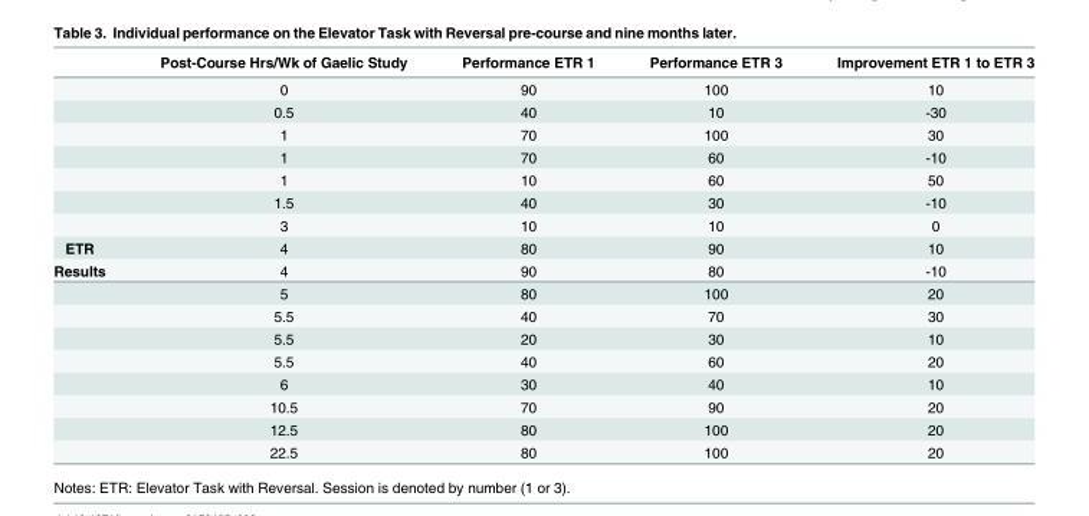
<table><thead><tr><td></td><td>Post-Course Hrs/Wk of Gaelic Study</td><td>Performance ETR 1</td><td>Performance ETR 3</td><td>Improvement ETR 1 to ETR 3</td></tr></thead><tbody><tr><td></td><td>0</td><td>90</td><td>100</td><td>10</td></tr><tr><td></td><td>0.5</td><td>40</td><td>10</td><td>-30</td></tr><tr><td></td><td>1</td><td>70</td><td>100</td><td>30</td></tr><tr><td></td><td>1</td><td>70</td><td>60</td><td>-10</td></tr><tr><td></td><td>1</td><td>10</td><td>60</td><td>50</td></tr><tr><td></td><td>1.5</td><td>40</td><td>30</td><td>-10</td></tr><tr><td></td><td>3</td><td>10</td><td>10</td><td>0</td></tr><tr><td>ETR</td><td>4</td><td>80</td><td>90</td><td>10</td></tr><tr><td rowspan="9">Results</td><td>4</td><td>90</td><td>80</td><td>-10</td></tr><tr><td>5</td><td>80</td><td>100</td><td>20</td></tr><tr><td>5.5</td><td>40</td><td>70</td><td>30</td></tr><tr><td>5.5</td><td>20</td><td>30</td><td>10</td></tr><tr><td>5.5</td><td>40</td><td>60</td><td>20</td></tr><tr><td>6</td><td>30</td><td>40</td><td>10</td></tr><tr><td>10.5</td><td>70</td><td>90</td><td>20</td></tr><tr><td>12.5</td><td>80</td><td>100</td><td>20</td></tr><tr><td>22.5</td><td>80</td><td>100</td><td>20</td></tr></tbody></table>